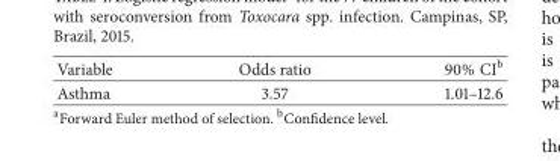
<table><thead><tr><td>Variable</td><td>Odds ratio</td><td>90% CI<sup>b</sup></td></tr></thead><tbody><tr><td>Asthma</td><td>3.57</td><td>1.01–12.6</td></tr></tbody></table>